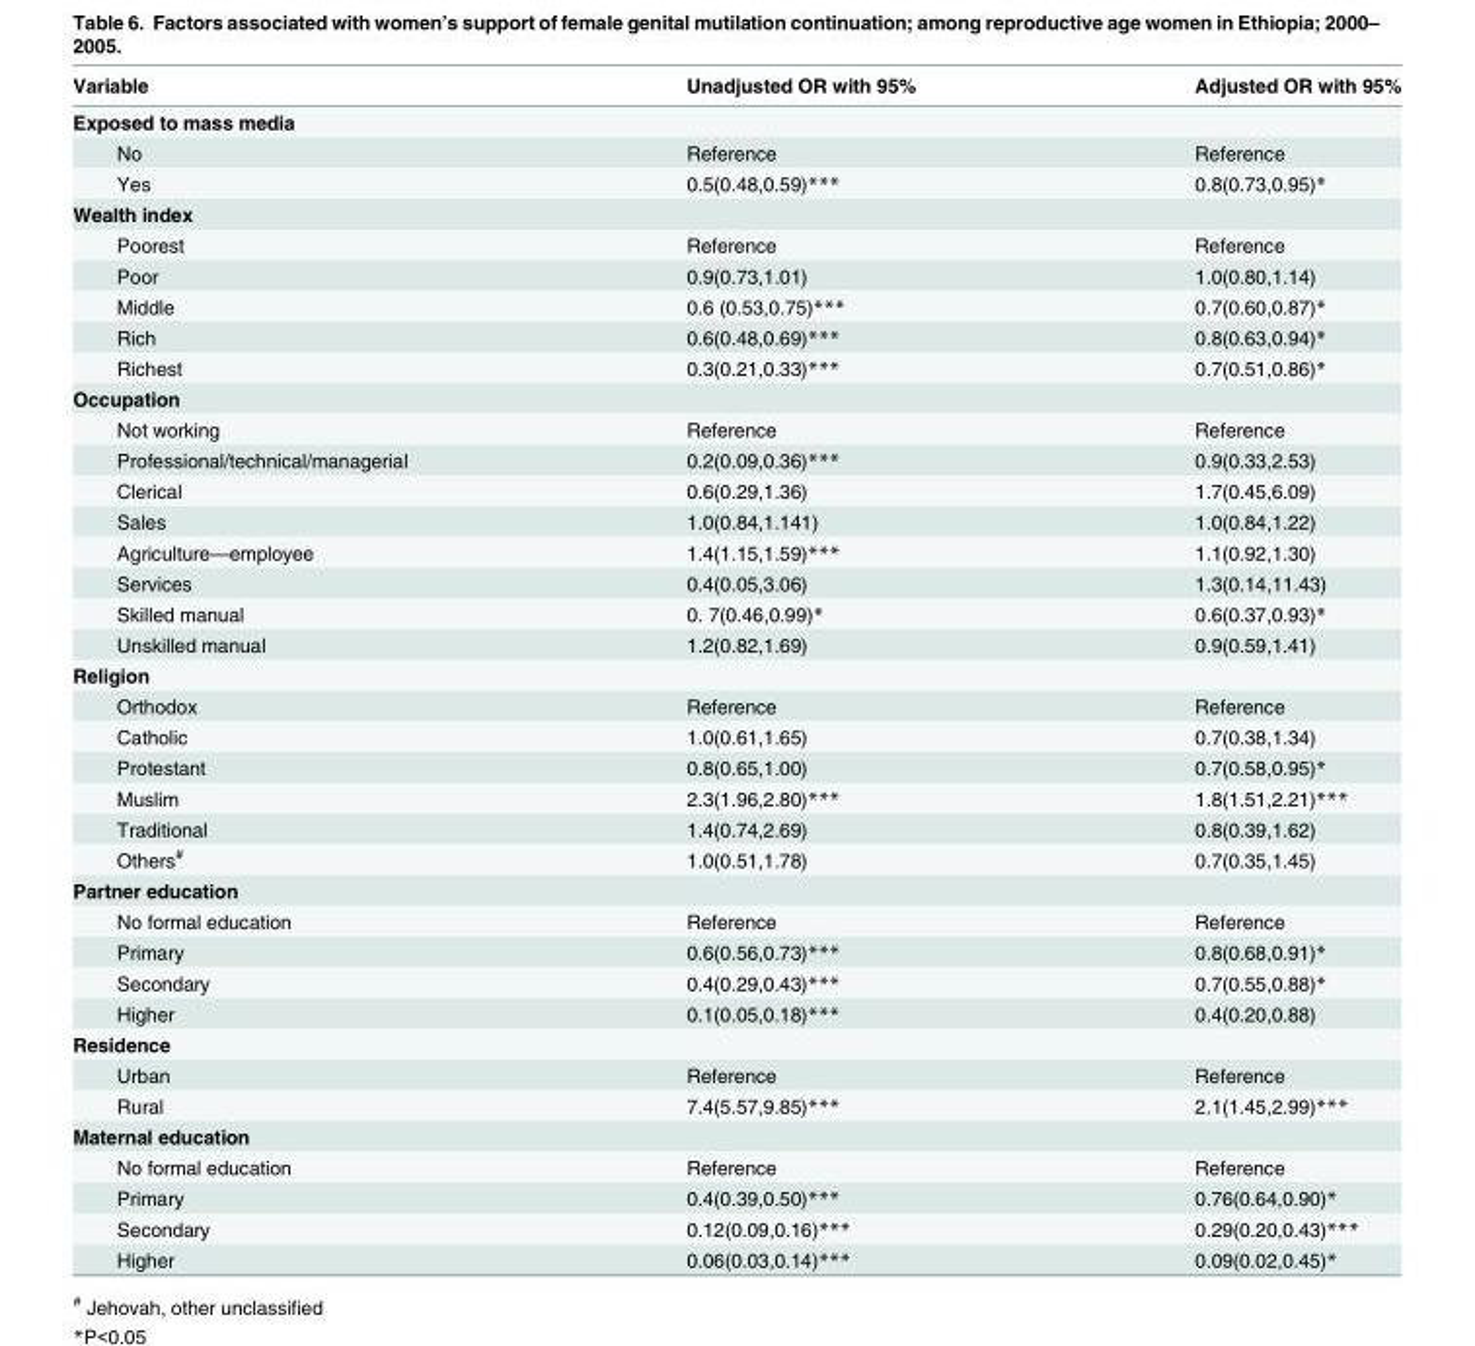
<table><thead><tr><td>Variable</td><td>Unadjusted OR with 95%</td><td>Adjusted OR with 95%</td></tr></thead><tbody><tr><td colspan="3">Exposed to mass media</td></tr><tr><td>No</td><td>Reference</td><td>Reference</td></tr><tr><td>Yes</td><td>0.5(0.48,0.59)***</td><td>0.8(0.73,0.95)*</td></tr><tr><td colspan="3">Wealth index</td></tr><tr><td>Poorest</td><td>Reference</td><td>Reference</td></tr><tr><td>Poor</td><td>0.9(0.73,1.01)</td><td>1.0(0.80,1.14)</td></tr><tr><td>Middle</td><td>0.6 (0.53,0.75)***</td><td>0.7(0.60,0.87)*</td></tr><tr><td>Rich</td><td>0.6(0.48,0.69)***</td><td>0.8(0.63,0.94)*</td></tr><tr><td>Richest</td><td>0.3(0.21,0.33)***</td><td>0.7(0.51,0.86)*</td></tr><tr><td colspan="3">Occupation</td></tr><tr><td>Not working</td><td>Reference</td><td>Reference</td></tr><tr><td>Professional/technical/managerial</td><td>0.2(0.09,0.36)***</td><td>0.9(0.33,2.53)</td></tr><tr><td>Clerical</td><td>0.6(0.29,1.36)</td><td>1.7(0.45,6.09)</td></tr><tr><td>Sales</td><td>1.0(0.84,1.141)</td><td>1.0(0.84,1.22)</td></tr><tr><td>Agriculture—employee</td><td>1.4(1.15,1.59)***</td><td>1.1(0.92,1.30)</td></tr><tr><td>Services</td><td>0.4(0.05,3.06)</td><td>1.3(0.14,11.43)</td></tr><tr><td>Skilled manual</td><td>0. 7(0.46,0.99)*</td><td>0.6(0.37,0.93)*</td></tr><tr><td>Unskilled manual</td><td>1.2(0.82,1.69)</td><td>0.9(0.59,1.41)</td></tr><tr><td colspan="3">Religion</td></tr><tr><td>Orthodox</td><td>Reference</td><td>Reference</td></tr><tr><td>Catholic</td><td>1.0(0.61,1.65)</td><td>0.7(0.38,1.34)</td></tr><tr><td>Protestant</td><td>0.8(0.65,1.00)</td><td>0.7(0.58,0.95)*</td></tr><tr><td>Muslim</td><td>2.3(1.96,2.80)***</td><td>1.8(1.51,2.21)***</td></tr><tr><td>Traditional</td><td>1.4(0.74,2.69)</td><td>0.8(0.39,1.62)</td></tr><tr><td>Others<sup>#</sup></td><td>1.0(0.51,1.78)</td><td>0.7(0.35,1.45)</td></tr><tr><td colspan="3">Partner education</td></tr><tr><td>No formal education</td><td>Reference</td><td>Reference</td></tr><tr><td>Primary</td><td>0.6(0.56,0.73)***</td><td>0.8(0.68,0.91)*</td></tr><tr><td>Secondary</td><td>0.4(0.29,0.43)***</td><td>0.7(0.55,0.88)*</td></tr><tr><td>Higher</td><td>0.1(0.05,0.18)***</td><td>0.4(0.20,0.88)</td></tr><tr><td colspan="3">Residence</td></tr><tr><td>Urban</td><td>Reference</td><td>Reference</td></tr><tr><td>Rural</td><td>7.4(5.57,9.85)***</td><td>2.1(1.45,2.99)***</td></tr><tr><td colspan="3">Maternal education</td></tr><tr><td>No formal education</td><td>Reference</td><td>Reference</td></tr><tr><td>Primary</td><td>0.4(0.39,0.50)***</td><td>0.76(0.64,0.90)*</td></tr><tr><td>Secondary</td><td>0.12(0.09,0.16)***</td><td>0.29(0.20,0.43)***</td></tr><tr><td>Higher</td><td>0.06(0.03,0.14)***</td><td>0.09(0.02,0.45)*</td></tr></tbody></table>